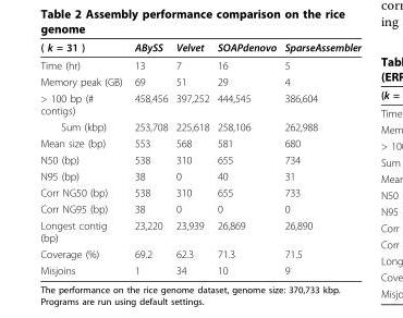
<table><thead><tr><td>( k = 31 )</td><td>ABySS</td><td>Velvet</td><td>SOAPdenovo</td><td>SparseAssembler</td></tr></thead><tbody><tr><td>Time (hr)</td><td>13</td><td>7</td><td>16</td><td>5</td></tr><tr><td>Memory peak (GB)</td><td>69</td><td>51</td><td>29</td><td>4</td></tr><tr><td>&gt; 100 bp (# contigs)</td><td>458,456</td><td>397,252</td><td>444,545</td><td>386,604</td></tr><tr><td>Sum (kbp)</td><td>253,708</td><td>225,618</td><td>258,106</td><td>262,988</td></tr><tr><td>Mean size (bp)</td><td>553</td><td>568</td><td>581</td><td>680</td></tr><tr><td>N50 (bp)</td><td>538</td><td>310</td><td>655</td><td>734</td></tr><tr><td>N95 (bp)</td><td>38</td><td>0</td><td>40</td><td>31</td></tr><tr><td>Corr NG50 (bp)</td><td>538</td><td>310</td><td>655</td><td>733</td></tr><tr><td>Corr NG95 (bp)</td><td>38</td><td>0</td><td>0</td><td>0</td></tr><tr><td>Longest contig (bp)</td><td>23,220</td><td>23,939</td><td>26,869</td><td>26,890</td></tr><tr><td>Coverage (%)</td><td>69.2</td><td>62.3</td><td>71.3</td><td>71.5</td></tr><tr><td>Misjoins</td><td>1</td><td>34</td><td>10</td><td>9</td></tr></tbody></table>